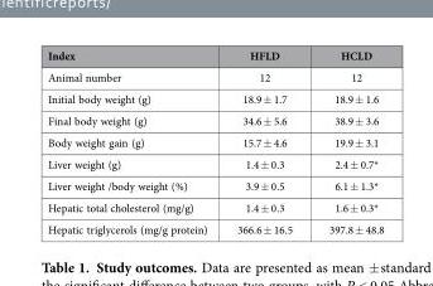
<table><thead><tr><td>Index</td><td>HFLD</td><td>HCLD</td></tr></thead><tbody><tr><td>Animal number</td><td>12</td><td>12</td></tr><tr><td>Initial body weight (g)</td><td>18.9 ± 1.7</td><td>18.9 ± 1.6</td></tr><tr><td>Final body weight (g)</td><td>34.6 ± 5.6</td><td>38.9 ± 3.6</td></tr><tr><td>Body weight gain (g)</td><td>15.7 ± 4.6</td><td>19.9 ± 3.1</td></tr><tr><td>Liver weight (g)</td><td>1.4 ± 0.3</td><td>2.4 ± 0.7*</td></tr><tr><td>Liver weight /body weight (%)</td><td>3.9 ± 0.5</td><td>6.1 ± 1.3*</td></tr><tr><td>Hepatic total cholesterol (mg/g)</td><td>1.4 ± 0.3</td><td>1.6 ± 0.3*</td></tr><tr><td>Hepatic triglycerols (mg/g protein)</td><td>366.6 ± 16.5</td><td>397.8 ± 48.8</td></tr></tbody></table>